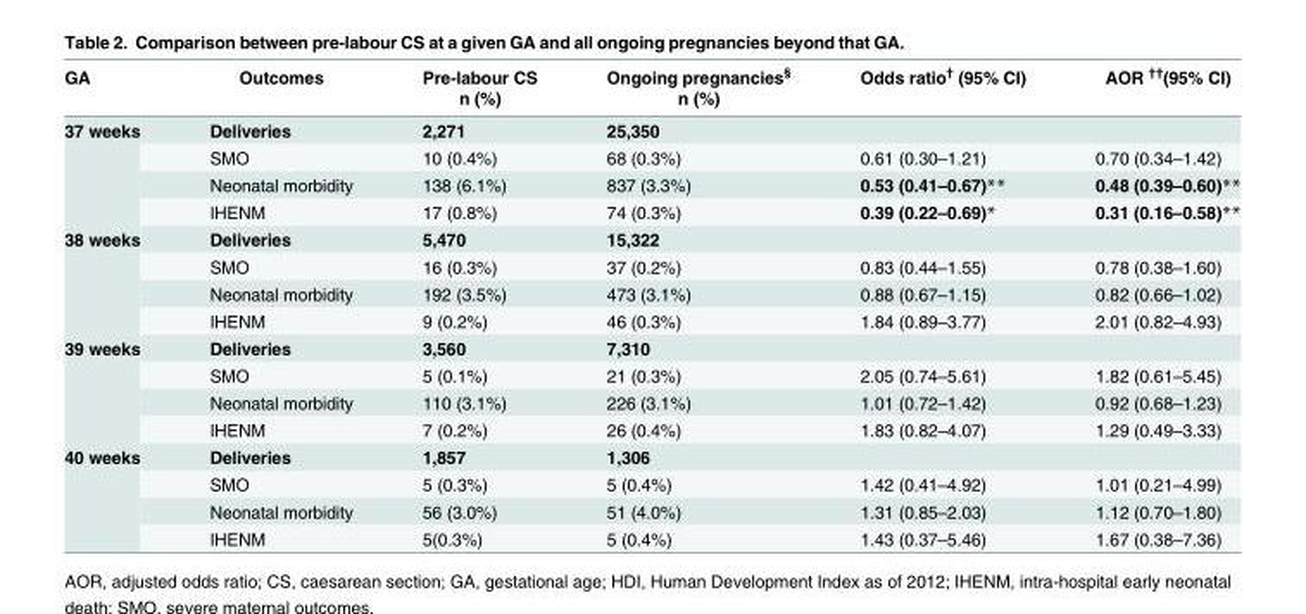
<table><thead><tr><td rowspan="2">GA</td><td rowspan="2">Outcomes</td><td rowspan="2">Pre-labour CS n (%)</td><td rowspan="2">Ongoing pregnancies<sup>§</sup> n (%)</td><td rowspan="2">Odds ratio<sup>†</sup> (95% CI)</td><td rowspan="2">AOR <sup>††</sup>(95% CI)</td></tr><tr></tr></thead><tbody><tr><td rowspan="4">37 weeks</td><td>Deliveries</td><td>2,271</td><td>25,350</td><td></td><td></td></tr><tr><td>SMO</td><td>10 (0.4%)</td><td>68 (0.3%)</td><td>0.61 (0.30–1.21)</td><td>0.70 (0.34–1.42)</td></tr><tr><td>Neonatal morbidity</td><td>138 (6.1%)</td><td>837 (3.3%)</td><td>0.53 (0.41–0.67)**</td><td>0.48 (0.39–0.60)**</td></tr><tr><td>IHENM</td><td>17 (0.8%)</td><td>74 (0.3%)</td><td>0.39 (0.22–0.69)*</td><td>0.31 (0.16–0.58)**</td></tr><tr><td rowspan="4">38 weeks</td><td>Deliveries</td><td>5,470</td><td>15,322</td><td></td><td></td></tr><tr><td>SMO</td><td>16 (0.3%)</td><td>37 (0.2%)</td><td>0.83 (0.44–1.55)</td><td>0.78 (0.38–1.60)</td></tr><tr><td>Neonatal morbidity</td><td>192 (3.5%)</td><td>473 (3.1%)</td><td>0.88 (0.67–1.15)</td><td>0.82 (0.66–1.02)</td></tr><tr><td>IHENM</td><td>9 (0.2%)</td><td>46 (0.3%)</td><td>1.84 (0.89–3.77)</td><td>2.01 (0.82–4.93)</td></tr><tr><td rowspan="4">39 weeks</td><td>Deliveries</td><td>3,560</td><td>7,310</td><td></td><td></td></tr><tr><td>SMO</td><td>5 (0.1%)</td><td>21 (0.3%)</td><td>2.05 (0.74–5.61)</td><td>1.82 (0.61–5.45)</td></tr><tr><td>Neonatal morbidity</td><td>110 (3.1%)</td><td>226 (3.1%)</td><td>1.01 (0.72–1.42)</td><td>0.92 (0.68–1.23)</td></tr><tr><td>IHENM</td><td>7 (0.2%)</td><td>26 (0.4%)</td><td>1.83 (0.82–4.07)</td><td>1.29 (0.49–3.33)</td></tr><tr><td rowspan="4">40 weeks</td><td>Deliveries</td><td>1,857</td><td>1,306</td><td></td><td></td></tr><tr><td>SMO</td><td>5 (0.3%)</td><td>5 (0.4%)</td><td>1.42 (0.41–4.92)</td><td>1.01 (0.21–4.99)</td></tr><tr><td>Neonatal morbidity</td><td>56 (3.0%)</td><td>51 (4.0%)</td><td>1.31 (0.85–2.03)</td><td>1.12 (0.70–1.80)</td></tr><tr><td>IHENM</td><td>5(0.3%)</td><td>5 (0.4%)</td><td>1.43 (0.37–5.46)</td><td>1.67 (0.38–7.36)</td></tr></tbody></table>